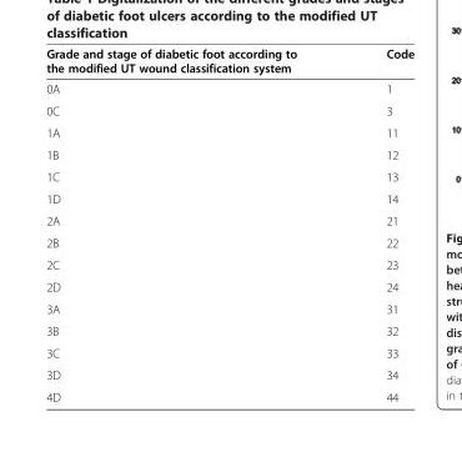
<table><thead><tr><td>Grade and stage of diabetic foot according to the modified UT wound classification system</td><td>Code</td></tr></thead><tbody><tr><td>0A</td><td>1</td></tr><tr><td>0C</td><td>3</td></tr><tr><td>1A</td><td>11</td></tr><tr><td>1B</td><td>12</td></tr><tr><td>1C</td><td>13</td></tr><tr><td>1D</td><td>14</td></tr><tr><td>2A</td><td>21</td></tr><tr><td>2B</td><td>22</td></tr><tr><td>2C</td><td>23</td></tr><tr><td>2D</td><td>24</td></tr><tr><td>3A</td><td>31</td></tr><tr><td>3B</td><td>32</td></tr><tr><td>3C</td><td>33</td></tr><tr><td>3D</td><td>34</td></tr><tr><td>4D</td><td>44</td></tr></tbody></table>